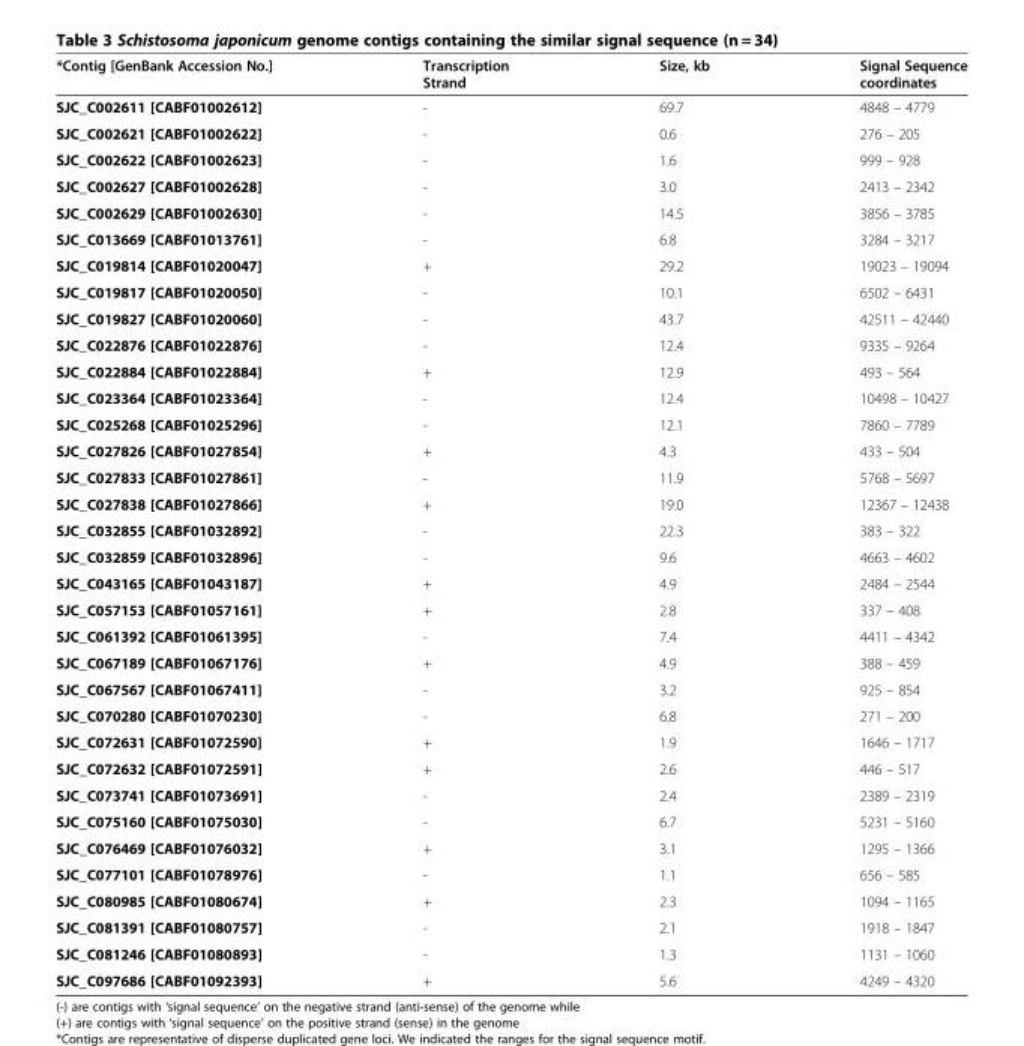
<table><thead><tr><td>*Contig [GenBank Accession No.]</td><td>Transcription Strand</td><td>Size, kb</td><td>Signal Sequence coordinates</td></tr></thead><tbody><tr><td>SJC_C002611 [CABF01002612]</td><td>-</td><td>69.7</td><td>4848 – 4779</td></tr><tr><td>SJC_C002621 [CABF01002622]</td><td>-</td><td>0.6</td><td>276 – 205</td></tr><tr><td>SJC_C002622 [CABF01002623]</td><td>-</td><td>1.6</td><td>999 – 928</td></tr><tr><td>SJC_C002627 [CABF01002628]</td><td>-</td><td>3.0</td><td>2413 – 2342</td></tr><tr><td>SJC_C002629 [CABF01002630]</td><td>-</td><td>14.5</td><td>3856 – 3785</td></tr><tr><td>SJC_C013669 [CABF01013761]</td><td>-</td><td>6.8</td><td>3284 – 3217</td></tr><tr><td>SJC_C019814 [CABF01020047]</td><td>+</td><td>29.2</td><td>19023 – 19094</td></tr><tr><td>SJC_C019817 [CABF01020050]</td><td>-</td><td>10.1</td><td>6502 – 6431</td></tr><tr><td>SJC_C019827 [CABF01020060]</td><td>-</td><td>43.7</td><td>42511 – 42440</td></tr><tr><td>SJC_C022876 [CABF01022876]</td><td>-</td><td>12.4</td><td>9335 – 9264</td></tr><tr><td>SJC_C022884 [CABF01022884]</td><td>+</td><td>12.9</td><td>493 – 564</td></tr><tr><td>SJC_C023364 [CABF01023364]</td><td>-</td><td>12.4</td><td>10498 – 10427</td></tr><tr><td>SJC_C025268 [CABF01025296]</td><td>-</td><td>12.1</td><td>7860 – 7789</td></tr><tr><td>SJC_C027826 [CABF01027854]</td><td>+</td><td>4.3</td><td>433 – 504</td></tr><tr><td>SJC_C027833 [CABF01027861]</td><td>-</td><td>11.9</td><td>5768 – 5697</td></tr><tr><td>SJC_C027838 [CABF01027866]</td><td>+</td><td>19.0</td><td>12367 – 12438</td></tr><tr><td>SJC_C032855 [CABF01032892]</td><td>-</td><td>22.3</td><td>383 – 322</td></tr><tr><td>SJC_C032859 [CABF01032896]</td><td>-</td><td>9.6</td><td>4663 – 4602</td></tr><tr><td>SJC_C043165 [CABF01043187]</td><td>+</td><td>4.9</td><td>2484 – 2544</td></tr><tr><td>SJC_C057153 [CABF01057161]</td><td>+</td><td>2.8</td><td>337 – 408</td></tr><tr><td>SJC_C061392 [CABF01061395]</td><td>-</td><td>7.4</td><td>4411 – 4342</td></tr><tr><td>SJC_C067189 [CABF01067176]</td><td>+</td><td>4.9</td><td>388 – 459</td></tr><tr><td>SJC_C067567 [CABF01067411]</td><td>-</td><td>3.2</td><td>925 – 854</td></tr><tr><td>SJC_C070280 [CABF01070230]</td><td>-</td><td>6.8</td><td>271 – 200</td></tr><tr><td>SJC_C072631 [CABF01072590]</td><td>+</td><td>1.9</td><td>1646 – 1717</td></tr><tr><td>SJC_C072632 [CABF01072591]</td><td>+</td><td>2.6</td><td>446 – 517</td></tr><tr><td>SJC_C073741 [CABF01073691]</td><td>-</td><td>2.4</td><td>2389 – 2319</td></tr><tr><td>SJC_C075160 [CABF01075030]</td><td>-</td><td>6.7</td><td>5231 – 5160</td></tr><tr><td>SJC_C076469 [CABF01076032]</td><td>+</td><td>3.1</td><td>1295 – 1366</td></tr><tr><td>SJC_C077101 [CABF01078976]</td><td>-</td><td>1.1</td><td>656 – 585</td></tr><tr><td>SJC_C080985 [CABF01080674]</td><td>+</td><td>2.3</td><td>1094 – 1165</td></tr><tr><td>SJC_C081391 [CABF01080757]</td><td>-</td><td>2.1</td><td>1918 – 1847</td></tr><tr><td>SJC_C081246 [CABF01080893]</td><td>-</td><td>1.3</td><td>1131 – 1060</td></tr><tr><td>SJC_C097686 [CABF01092393]</td><td>+</td><td>5.6</td><td>4249 – 4320</td></tr></tbody></table>